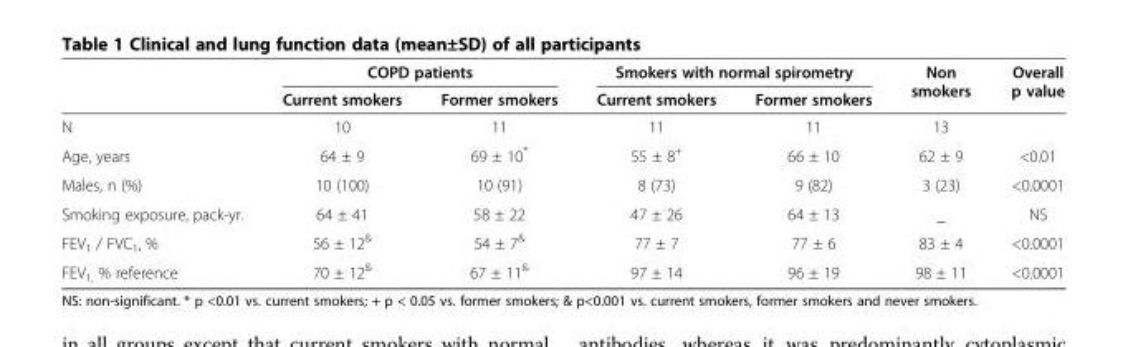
<table><thead><tr><td rowspan="2"></td><td colspan="2">COPD patients</td><td colspan="2">Smokers with normal spirometry</td><td rowspan="2">Non smokers</td><td rowspan="2">Overall p value</td></tr><tr><td>Current smokers</td><td>Former smokers</td><td>Current smokers</td><td>Former smokers</td></tr></thead><tbody><tr><td>N</td><td>10</td><td>11</td><td>11</td><td>11</td><td>13</td><td></td></tr><tr><td>Age, years</td><td>64 ± 9</td><td>69 ± 10*</td><td>55 ± 8<sup>+</sup></td><td>66 ± 10</td><td>62 ± 9</td><td>&lt;0.01</td></tr><tr><td>Males, n (%)</td><td>10 (100)</td><td>10 (91)</td><td>8 (73)</td><td>9 (82)</td><td>3 (23)</td><td>&lt;0.0001</td></tr><tr><td>Smoking exposure, pack-yr.</td><td>64 ± 41</td><td>58 ± 22</td><td>47 ± 26</td><td>64 ± 13</td><td>_</td><td>NS</td></tr><tr><td>FEV<sub>1</sub> / FVC<sub>1</sub>, %</td><td>56 ± 12<sup>&amp;</sup></td><td>54 ± 7<sup>&amp;</sup></td><td>77 ± 7</td><td>77 ± 6</td><td>83 ± 4</td><td>&lt;0.0001</td></tr><tr><td>FEV<sub>1,</sub> % reference</td><td>70 ± 12<sup>&amp;</sup></td><td>67 ± 11<sup>&amp;</sup></td><td>97 ± 14</td><td>96 ± 19</td><td>98 ± 11</td><td>&lt;0.0001</td></tr></tbody></table>